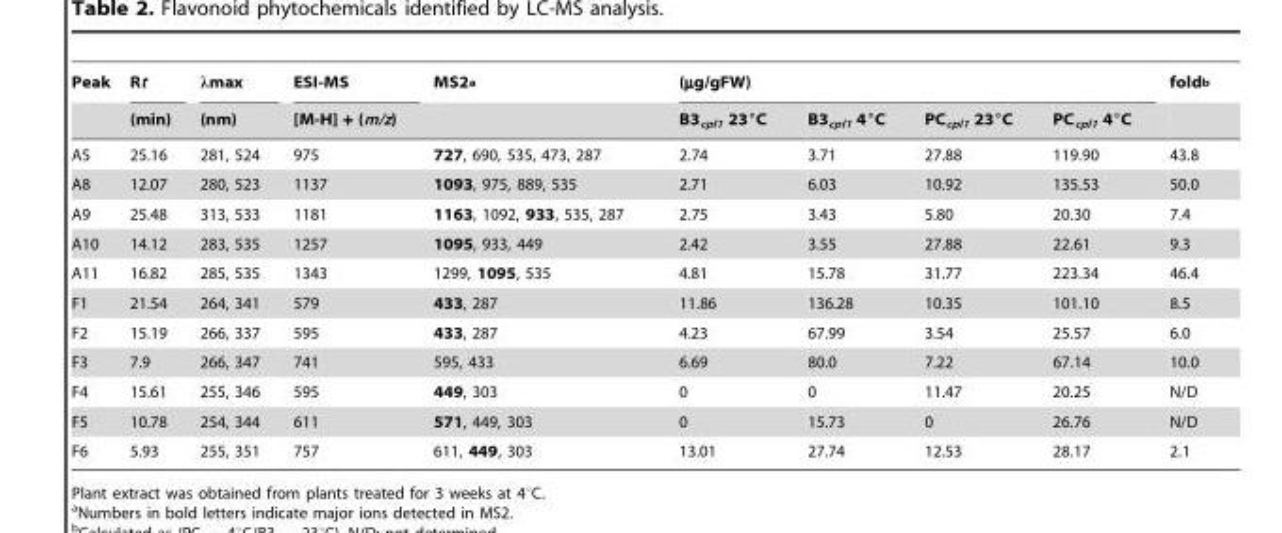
<table><thead><tr><td rowspan="2">Peak</td><td rowspan="2">Rt (min)</td><td rowspan="2">λmax (nm)</td><td rowspan="2">ESI-MS [M-H] + (m/z)</td><td rowspan="2">MS2<sup>a</sup></td><td colspan="4">(µg/gFW)</td><td rowspan="2">fold<sup>b</sup></td></tr><tr><td>B3<sub>cpl1</sub> 23°C</td><td>B3<sub>cpl1</sub> 4°C</td><td>PC<sub>cpl1</sub> 23°C</td><td>PC<sub>cpl1</sub> 4°C</td></tr></thead><tbody><tr><td>A5</td><td>25.16</td><td>281, 524</td><td>975</td><td>727, 690, 535, 473, 287</td><td>2.74</td><td>3.71</td><td>27.88</td><td>119.90</td><td>43.8</td></tr><tr><td>A8</td><td>12.07</td><td>280, 523</td><td>1137</td><td>1093, 975, 889, 535</td><td>2.71</td><td>6.03</td><td>10.92</td><td>135.53</td><td>50.0</td></tr><tr><td>A9</td><td>25.48</td><td>313, 533</td><td>1181</td><td>1163, 1092, 933, 535, 287</td><td>2.75</td><td>3.43</td><td>5.80</td><td>20.30</td><td>7.4</td></tr><tr><td>A10</td><td>14.12</td><td>283, 535</td><td>1257</td><td>1095, 933, 449</td><td>2.42</td><td>3.55</td><td>27.88</td><td>22.61</td><td>9.3</td></tr><tr><td>A11</td><td>16.82</td><td>285, 535</td><td>1343</td><td>1299, 1095, 535</td><td>4.81</td><td>15.78</td><td>31.77</td><td>223.34</td><td>46.4</td></tr><tr><td>F1</td><td>21.54</td><td>264, 341</td><td>579</td><td>433, 287</td><td>11.86</td><td>136.28</td><td>10.35</td><td>101.10</td><td>8.5</td></tr><tr><td>F2</td><td>15.19</td><td>266, 337</td><td>595</td><td>433, 287</td><td>4.23</td><td>67.99</td><td>3.54</td><td>25.57</td><td>6.0</td></tr><tr><td>F3</td><td>7.9</td><td>266, 347</td><td>741</td><td>595, 433</td><td>6.69</td><td>80.0</td><td>7.22</td><td>67.14</td><td>10.0</td></tr><tr><td>F4</td><td>15.61</td><td>255, 346</td><td>595</td><td>449, 303</td><td>0</td><td>0</td><td>11.47</td><td>20.25</td><td>N/D</td></tr><tr><td>F5</td><td>10.78</td><td>254, 344</td><td>611</td><td>571, 449, 303</td><td>0</td><td>15.73</td><td>0</td><td>26.76</td><td>N/D</td></tr><tr><td>F6</td><td>5.93</td><td>255, 351</td><td>757</td><td>611, 449, 303</td><td>13.01</td><td>27.74</td><td>12.53</td><td>28.17</td><td>2.1</td></tr></tbody></table>